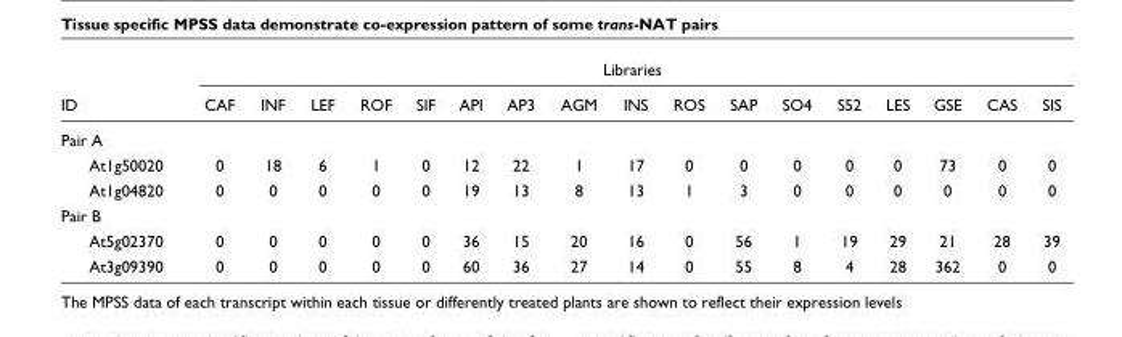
<table><thead><tr><td rowspan="2">ID</td><td colspan="17">Libraries</td></tr><tr><td>CAF</td><td>INF</td><td>LEF</td><td>ROF</td><td>SIF</td><td>API</td><td>AP3</td><td>AGM</td><td>INS</td><td>ROS</td><td>SAP</td><td>SO4</td><td>S52</td><td>LES</td><td>GSE</td><td>CAS</td><td>SIS</td></tr></thead><tbody><tr><td colspan="18">Pair A</td></tr><tr><td>At1g50020</td><td>0</td><td>18</td><td>6</td><td>1</td><td>0</td><td>12</td><td>22</td><td>1</td><td>17</td><td>0</td><td>0</td><td>0</td><td>0</td><td>0</td><td>73</td><td>0</td><td>0</td></tr><tr><td>At1g04820</td><td>0</td><td>0</td><td>0</td><td>0</td><td>0</td><td>19</td><td>13</td><td>8</td><td>13</td><td>1</td><td>3</td><td>0</td><td>0</td><td>0</td><td>0</td><td>0</td><td>0</td></tr><tr><td colspan="18">Pair B</td></tr><tr><td>At5g02370</td><td>0</td><td>0</td><td>0</td><td>0</td><td>0</td><td>36</td><td>15</td><td>20</td><td>16</td><td>0</td><td>56</td><td>1</td><td>19</td><td>29</td><td>21</td><td>28</td><td>39</td></tr><tr><td>At3g09390</td><td>0</td><td>0</td><td>0</td><td>0</td><td>0</td><td>60</td><td>36</td><td>27</td><td>14</td><td>0</td><td>55</td><td>8</td><td>4</td><td>28</td><td>362</td><td>0</td><td>0</td></tr></tbody></table>